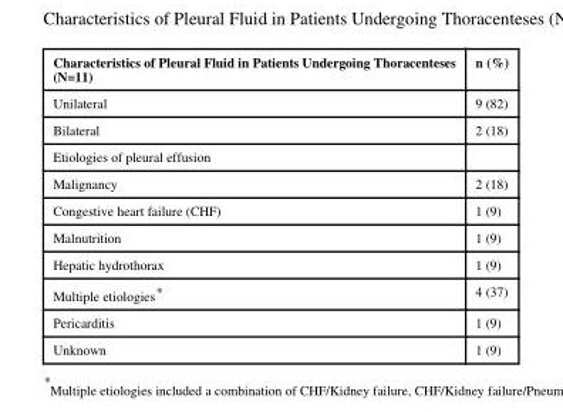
<table><thead><tr><td>Characteristics of Pleural Fluid in Patients Undergoing Thoracenteses (N=11)</td><td>n (%)</td></tr></thead><tbody><tr><td>Unilateral</td><td>9 (82)</td></tr><tr><td>Bilateral</td><td>2 (18)</td></tr><tr><td colspan="2">Etiologies of pleural effusion</td></tr><tr><td>Malignancy</td><td>2 (18)</td></tr><tr><td>Congestive heart failure (CHF)</td><td>1 (9)</td></tr><tr><td>Malnutrition</td><td>1 (9)</td></tr><tr><td>Hepatic hydrothorax</td><td>1 (9)</td></tr><tr><td>Multiple etiologies*</td><td>4 (37)</td></tr><tr><td>Pericarditis</td><td>1 (9)</td></tr><tr><td>Unknown</td><td>1 (9)</td></tr></tbody></table>